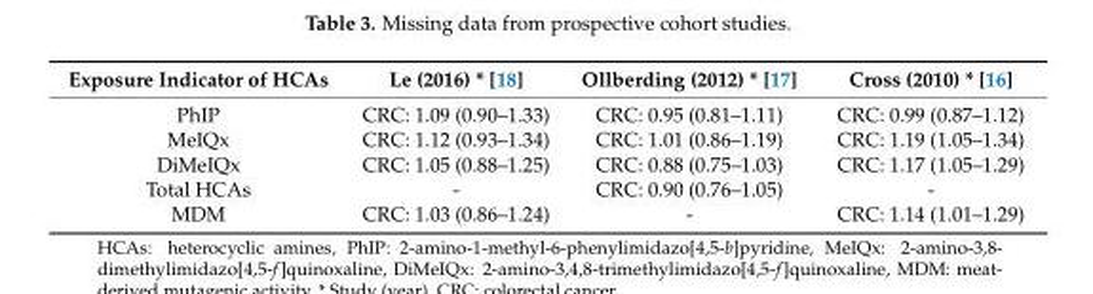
<table><thead><tr><td>Exposure Indicator of HCAs</td><td>Le (2016) * [18]</td><td>Ollberding (2012) * [17]</td><td>Cross (2010) * [16]</td></tr></thead><tbody><tr><td>PhIP</td><td>CRC: 1.09 (0.90–1.33)</td><td>CRC: 0.95 (0.81–1.11)</td><td>CRC: 0.99 (0.87–1.12)</td></tr><tr><td>MeIQx</td><td>CRC: 1.12 (0.93–1.34)</td><td>CRC: 1.01 (0.86–1.19)</td><td>CRC: 1.19 (1.05–1.34)</td></tr><tr><td>DiMeIQx</td><td>CRC: 1.05 (0.88–1.25)</td><td>CRC: 0.88 (0.75–1.03)</td><td>CRC: 1.17 (1.05–1.29)</td></tr><tr><td>Total HCAs</td><td>-</td><td>CRC: 0.90 (0.76–1.05)</td><td>-</td></tr><tr><td>MDM</td><td>CRC: 1.03 (0.86–1.24)</td><td>-</td><td>CRC: 1.14 (1.01–1.29)</td></tr></tbody></table>